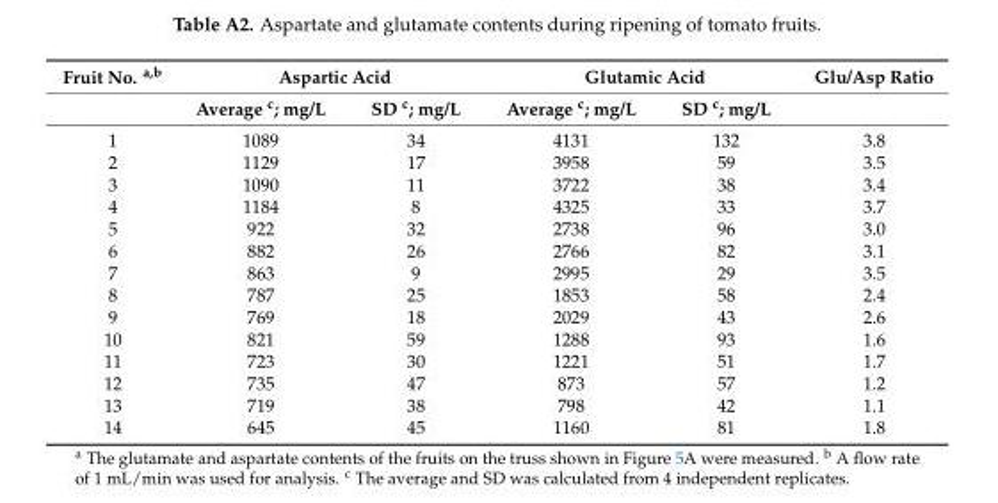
<table><thead><tr><td rowspan="2">Fruit No. <sup>a,b</sup></td><td colspan="2">Aspartic Acid</td><td colspan="2">Glutamic Acid</td><td rowspan="2">Glu/Asp Ratio</td></tr><tr><td>Average <sup>c</sup>; mg/L</td><td>SD <sup>c</sup>; mg/L</td><td>Average <sup>c</sup>; mg/L</td><td>SD <sup>c</sup>; mg/L</td></tr></thead><tbody><tr><td>1</td><td>1089</td><td>34</td><td>4131</td><td>132</td><td>3.8</td></tr><tr><td>2</td><td>1129</td><td>17</td><td>3958</td><td>59</td><td>3.5</td></tr><tr><td>3</td><td>1090</td><td>11</td><td>3722</td><td>38</td><td>3.4</td></tr><tr><td>4</td><td>1184</td><td>8</td><td>4325</td><td>33</td><td>3.7</td></tr><tr><td>5</td><td>922</td><td>32</td><td>2738</td><td>96</td><td>3.0</td></tr><tr><td>6</td><td>882</td><td>26</td><td>2766</td><td>82</td><td>3.1</td></tr><tr><td>7</td><td>863</td><td>9</td><td>2995</td><td>29</td><td>3.5</td></tr><tr><td>8</td><td>787</td><td>25</td><td>1853</td><td>58</td><td>2.4</td></tr><tr><td>9</td><td>769</td><td>18</td><td>2029</td><td>43</td><td>2.6</td></tr><tr><td>10</td><td>821</td><td>59</td><td>1288</td><td>93</td><td>1.6</td></tr><tr><td>11</td><td>723</td><td>30</td><td>1221</td><td>51</td><td>1.7</td></tr><tr><td>12</td><td>735</td><td>47</td><td>873</td><td>57</td><td>1.2</td></tr><tr><td>13</td><td>719</td><td>38</td><td>798</td><td>42</td><td>1.1</td></tr><tr><td>14</td><td>645</td><td>45</td><td>1160</td><td>81</td><td>1.8</td></tr></tbody></table>